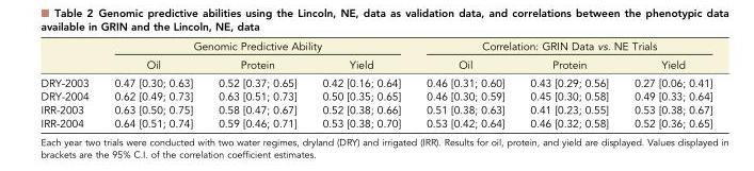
<table><thead><tr><td rowspan="2"></td><td colspan="3">Genomic Predictive Ability</td><td colspan="3">Correlation: GRIN Data vs. NE Trials</td></tr><tr><td>Oil</td><td>Protein</td><td>Yield</td><td>Oil</td><td>Protein</td><td>Yield</td></tr></thead><tbody><tr><td>DRY-2003</td><td>0.47 [0.30; 0.63]</td><td>0.52 [0.37; 0.65]</td><td>0.42 [0.16; 0.64]</td><td>0.46 [0.31; 0.60]</td><td>0.43 [0.29; 0.56]</td><td>0.27 [0.06; 0.41]</td></tr><tr><td>DRY-2004</td><td>0.62 [0.49; 0.73]</td><td>0.63 [0.51; 0.73]</td><td>0.50 [0.35; 0.65]</td><td>0.46 [0.30; 0.59]</td><td>0.45 [0.30; 0.58]</td><td>0.49 [0.33; 0.64]</td></tr><tr><td>IRR-2003</td><td>0.63 [0.50; 0.75]</td><td>0.58 [0.47; 0.67]</td><td>0.52 [0.38; 0.66]</td><td>0.51 [0.38; 0.63]</td><td>0.41 [0.23; 0.55]</td><td>0.53 [0.38; 0.67]</td></tr><tr><td>IRR-2004</td><td>0.64 [0.51; 0.74]</td><td>0.59 [0.46; 0.71]</td><td>0.53 [0.38; 0.70]</td><td>0.53 [0.42; 0.64]</td><td>0.46 [0.32; 0.58]</td><td>0.52 [0.36; 0.65]</td></tr></tbody></table>